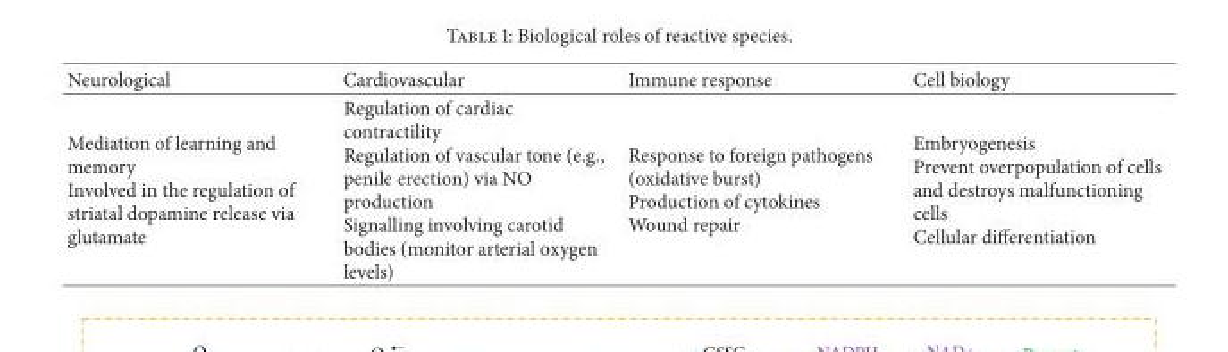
<table><thead><tr><td>Neurological</td><td>Cardiovascular</td><td>Immune response</td><td>Cell biology</td></tr></thead><tbody><tr><td>Mediation of learning and memory Involved in the regulation of striatal dopamine release via glutamate</td><td>Regulation of cardiac contractility Regulation of vascular tone (e.g., penile erection) via NO production Signalling involving carotid bodies (monitor arterial oxygen levels)</td><td>Response to foreign pathogens (oxidative burst) Production of cytokines Wound repair</td><td>Embryogenesis Prevent overpopulation of cells and destroys malfunctioning cells Cellular differentiation</td></tr></tbody></table>